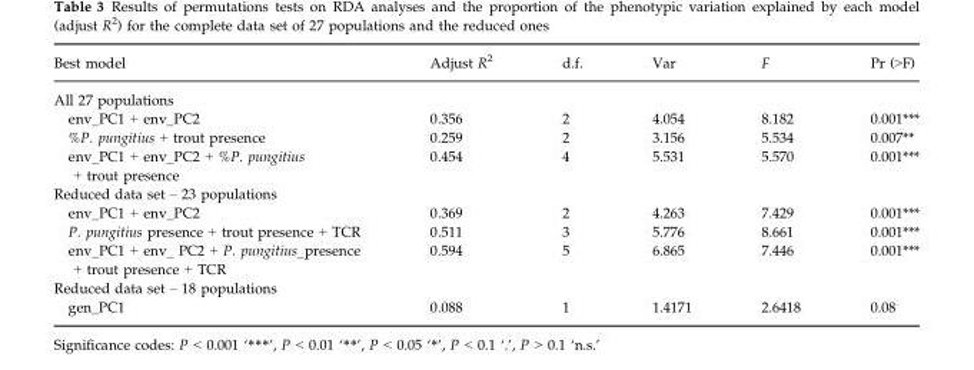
<table><thead><tr><td>Best model</td><td>Adjust R<sup>2</sup></td><td>d.f.</td><td>Var</td><td>F</td><td>Pr (&gt;F)</td></tr></thead><tbody><tr><td colspan="6">All 27 populations</td></tr><tr><td>env_PC1 + env_PC2</td><td>0.356</td><td>2</td><td>4.054</td><td>8.182</td><td>0.001***</td></tr><tr><td>%P. pungitius + trout presence</td><td>0.259</td><td>2</td><td>3.156</td><td>5.534</td><td>0.007**</td></tr><tr><td>env_PC1 + env_PC2 + %P. pungitius + trout presence</td><td>0.454</td><td>4</td><td>5.531</td><td>5.570</td><td>0.001***</td></tr><tr><td colspan="6">Reduced data set – 23 populations</td></tr><tr><td>env_PC1 + env_PC2</td><td>0.369</td><td>2</td><td>4.263</td><td>7.429</td><td>0.001***</td></tr><tr><td>P. pungitius presence + trout presence + TCR</td><td>0.511</td><td>3</td><td>5.776</td><td>8.661</td><td>0.001***</td></tr><tr><td>env_PC1 + env_ PC2 + P. pungitius_presence + trout presence + TCR</td><td>0.594</td><td>5</td><td>6.865</td><td>7.446</td><td>0.001***</td></tr><tr><td colspan="6">Reduced data set – 18 populations</td></tr><tr><td>gen_PC1</td><td>0.088</td><td>1</td><td>1.4171</td><td>2.6418</td><td>0.08.</td></tr></tbody></table>